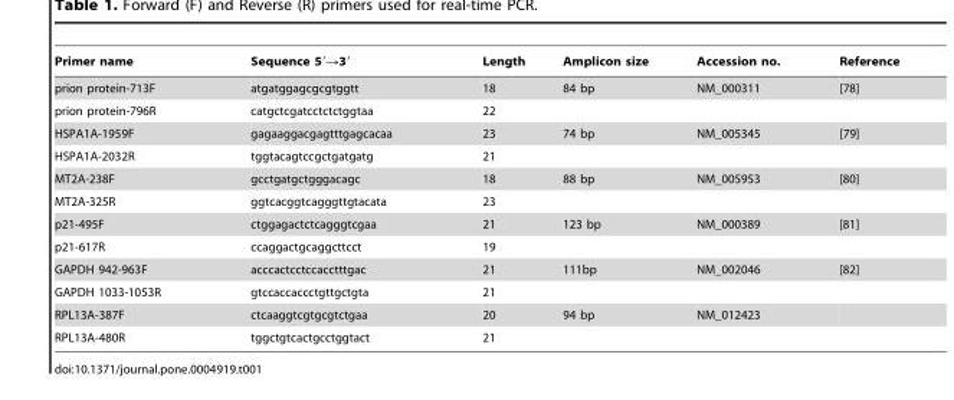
<table><thead><tr><td>Primer name</td><td>Sequence 5′→3′</td><td>Length</td><td>Amplicon size</td><td>Accession no.</td><td>Reference</td></tr></thead><tbody><tr><td>prion protein-713F</td><td>atgatggagcgcgtggtt</td><td>18</td><td>84 bp</td><td>NM_000311</td><td>[78]</td></tr><tr><td>prion protein-796R</td><td>catgctcgatcctctctggtaa</td><td>22</td><td></td><td></td><td></td></tr><tr><td>HSPA1A-1959F</td><td>gagaaggacgagtttgagcacaa</td><td>23</td><td>74 bp</td><td>NM_005345</td><td>[79]</td></tr><tr><td>HSPA1A-2032R</td><td>tggtacagtccgctgatgatg</td><td>21</td><td></td><td></td><td></td></tr><tr><td>MT2A-238F</td><td>gcctgatgctgggacagc</td><td>18</td><td>88 bp</td><td>NM_005953</td><td>[80]</td></tr><tr><td>MT2A-325R</td><td>ggtcacggtcagggttgtacata</td><td>23</td><td></td><td></td><td></td></tr><tr><td>p21-495F</td><td>ctggagactctcagggtcgaa</td><td>21</td><td>123 bp</td><td>NM_000389</td><td>[81]</td></tr><tr><td>p21-617R</td><td>ccaggactgcaggcttcct</td><td>19</td><td></td><td></td><td></td></tr><tr><td>GAPDH 942-963F</td><td>acccactcctccacctttgac</td><td>21</td><td>111bp</td><td>NM_002046</td><td>[82]</td></tr><tr><td>GAPDH 1033-1053R</td><td>gtccaccaccctgttgctgta</td><td>21</td><td></td><td></td><td></td></tr><tr><td>RPL13A-387F</td><td>ctcaaggtcgtgcgtctgaa</td><td>20</td><td>94 bp</td><td>NM_012423</td><td></td></tr><tr><td>RPL13A-480R</td><td>tggctgtcactgcctggtact</td><td>21</td><td></td><td></td><td></td></tr></tbody></table>